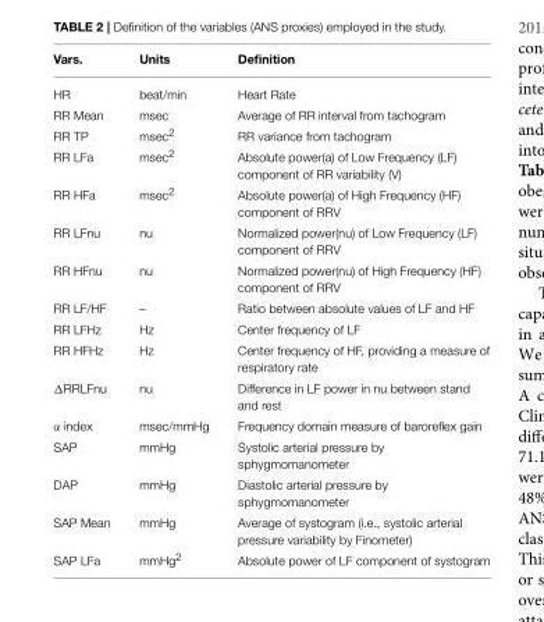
<table><thead><tr><td>Vars.</td><td>Units</td><td>Definition</td></tr></thead><tbody><tr><td>HR</td><td>beat/min</td><td>Heart Rate</td></tr><tr><td>RR Mean</td><td>msec</td><td>Average of RR interval from tachogram</td></tr><tr><td>RR TP</td><td>msec<sup>2</sup></td><td>RR variance from tachogram</td></tr><tr><td>RR LFa</td><td>msec<sup>2</sup></td><td>Absolute power(a) of Low Frequency (LF) component of RR variability (V)</td></tr><tr><td>RR HFa</td><td>msec<sup>2</sup></td><td>Absolute power(a) of High Frequency (HF) component of RRV</td></tr><tr><td>RR LFnu</td><td>nu</td><td>Normalized power(nu) of Low Frequency (LF) component of RRV</td></tr><tr><td>RR HFnu</td><td>nu</td><td>Normalized power(nu) of High Frequency (HF) component of RRV</td></tr><tr><td>RR LF/HF</td><td>–</td><td>Ratio between absolute values of LF and HF</td></tr><tr><td>RR LFHz</td><td>Hz</td><td>Center frequency of LF</td></tr><tr><td>RR HFHz</td><td>Hz</td><td>Center frequency of HF, providing a measure of respiratory rate</td></tr><tr><td>ΔRRLFnu</td><td>nu</td><td>Difference in LF power in nu between stand and rest</td></tr><tr><td>α index</td><td>msec/mmHg</td><td>Frequency domain measure of baroreflex gain</td></tr><tr><td>SAP</td><td>mmHg</td><td>Systolic arterial pressure by sphygmomanometer</td></tr><tr><td>DAP</td><td>mmHg</td><td>Diastolic arterial pressure by sphygmomanometer</td></tr><tr><td>SAP Mean</td><td>mmHg</td><td>Average of systogram (i.e., systolic arterial pressure variability by Finometer)</td></tr><tr><td>SAP LFa</td><td>mmHg<sup>2</sup></td><td>Absolute power of LF component of systogram</td></tr></tbody></table>